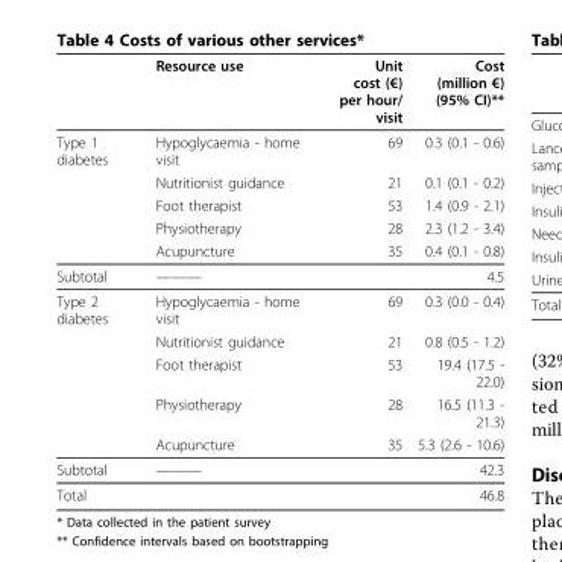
<table><thead><tr><td></td><td>Resource use</td><td>Unit cost (€) per hour/ visit</td><td>Cost (million €) (95% CI)**</td></tr></thead><tbody><tr><td rowspan="5">Type 1 diabetes</td><td>Hypoglycaemia - home visit</td><td>69</td><td>0.3 (0.1 - 0.6)</td></tr><tr><td>Nutritionist guidance</td><td>21</td><td>0.1 (0.1 - 0.2)</td></tr><tr><td>Foot therapist</td><td>53</td><td>1.4 (0.9 - 2.1)</td></tr><tr><td>Physiotherapy</td><td>28</td><td>2.3 (1.2 - 3.4)</td></tr><tr><td>Acupuncture</td><td>35</td><td>0.4 (0.1 - 0.8)</td></tr><tr><td>Subtotal</td><td>———</td><td></td><td>4.5</td></tr><tr><td rowspan="5">Type 2 diabetes</td><td>Hypoglycaemia - home visit</td><td>69</td><td>0.3 (0.0 - 0.4)</td></tr><tr><td>Nutritionist guidance</td><td>21</td><td>0.8 (0.5 - 1.2)</td></tr><tr><td>Foot therapist</td><td>53</td><td>19.4 (17.5 - 22.0)</td></tr><tr><td>Physiotherapy</td><td>28</td><td>16.5 (11.3 - 21.3)</td></tr><tr><td>Acupuncture</td><td>35</td><td>5.3 (2.6 - 10.6)</td></tr><tr><td>Subtotal</td><td>———</td><td></td><td>42.3</td></tr><tr><td>Total</td><td></td><td></td><td>46.8</td></tr></tbody></table>